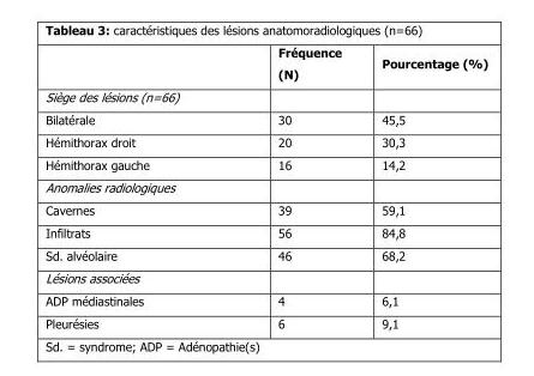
<table><thead><tr><td></td><td>Fréquence (N)</td><td>Pourcentage (%)</td></tr></thead><tbody><tr><td colspan="3">Siège des lésions (n=66)</td></tr><tr><td>Bilatérale</td><td>30</td><td>45,5</td></tr><tr><td>Hémithorax droit</td><td>20</td><td>30,3</td></tr><tr><td>Hémithorax gauche</td><td>16</td><td>14,2</td></tr><tr><td colspan="3">Anomalies radiologiques</td></tr><tr><td>Cavernes</td><td>39</td><td>59,1</td></tr><tr><td>Infiltrats</td><td>56</td><td>84,8</td></tr><tr><td>Sd. alvéolaire</td><td>46</td><td>68,2</td></tr><tr><td colspan="3">Lésions associées</td></tr><tr><td>ADP médiastinales</td><td>4</td><td>6,1</td></tr><tr><td>Pleurésies</td><td>6</td><td>9,1</td></tr></tbody></table>